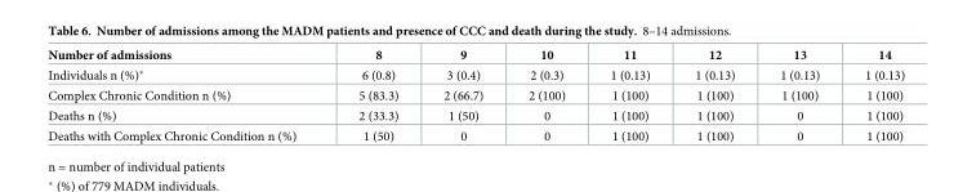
<table><thead><tr><td>Number of admissions</td><td>8</td><td>9</td><td>10</td><td>11</td><td>12</td><td>13</td><td>14</td></tr></thead><tbody><tr><td>Individuals n (%)*</td><td>6 (0.8)</td><td>3 (0.4)</td><td>2 (0.3)</td><td>1 (0.13)</td><td>1 (0.13)</td><td>1 (0.13)</td><td>1 (0.13)</td></tr><tr><td>Complex Chronic Condition n (%)</td><td>5 (83.3)</td><td>2 (66.7)</td><td>2 (100)</td><td>1 (100)</td><td>1 (100)</td><td>1 (100)</td><td>1 (100)</td></tr><tr><td>Deaths n (%)</td><td>2 (33.3)</td><td>1 (50)</td><td>0</td><td>1 (100)</td><td>1 (100)</td><td>0</td><td>1 (100)</td></tr><tr><td>Deaths with Complex Chronic Condition n (%)</td><td>1 (50)</td><td>0</td><td>0</td><td>1 (100)</td><td>1 (100)</td><td>0</td><td>1 (100)</td></tr></tbody></table>